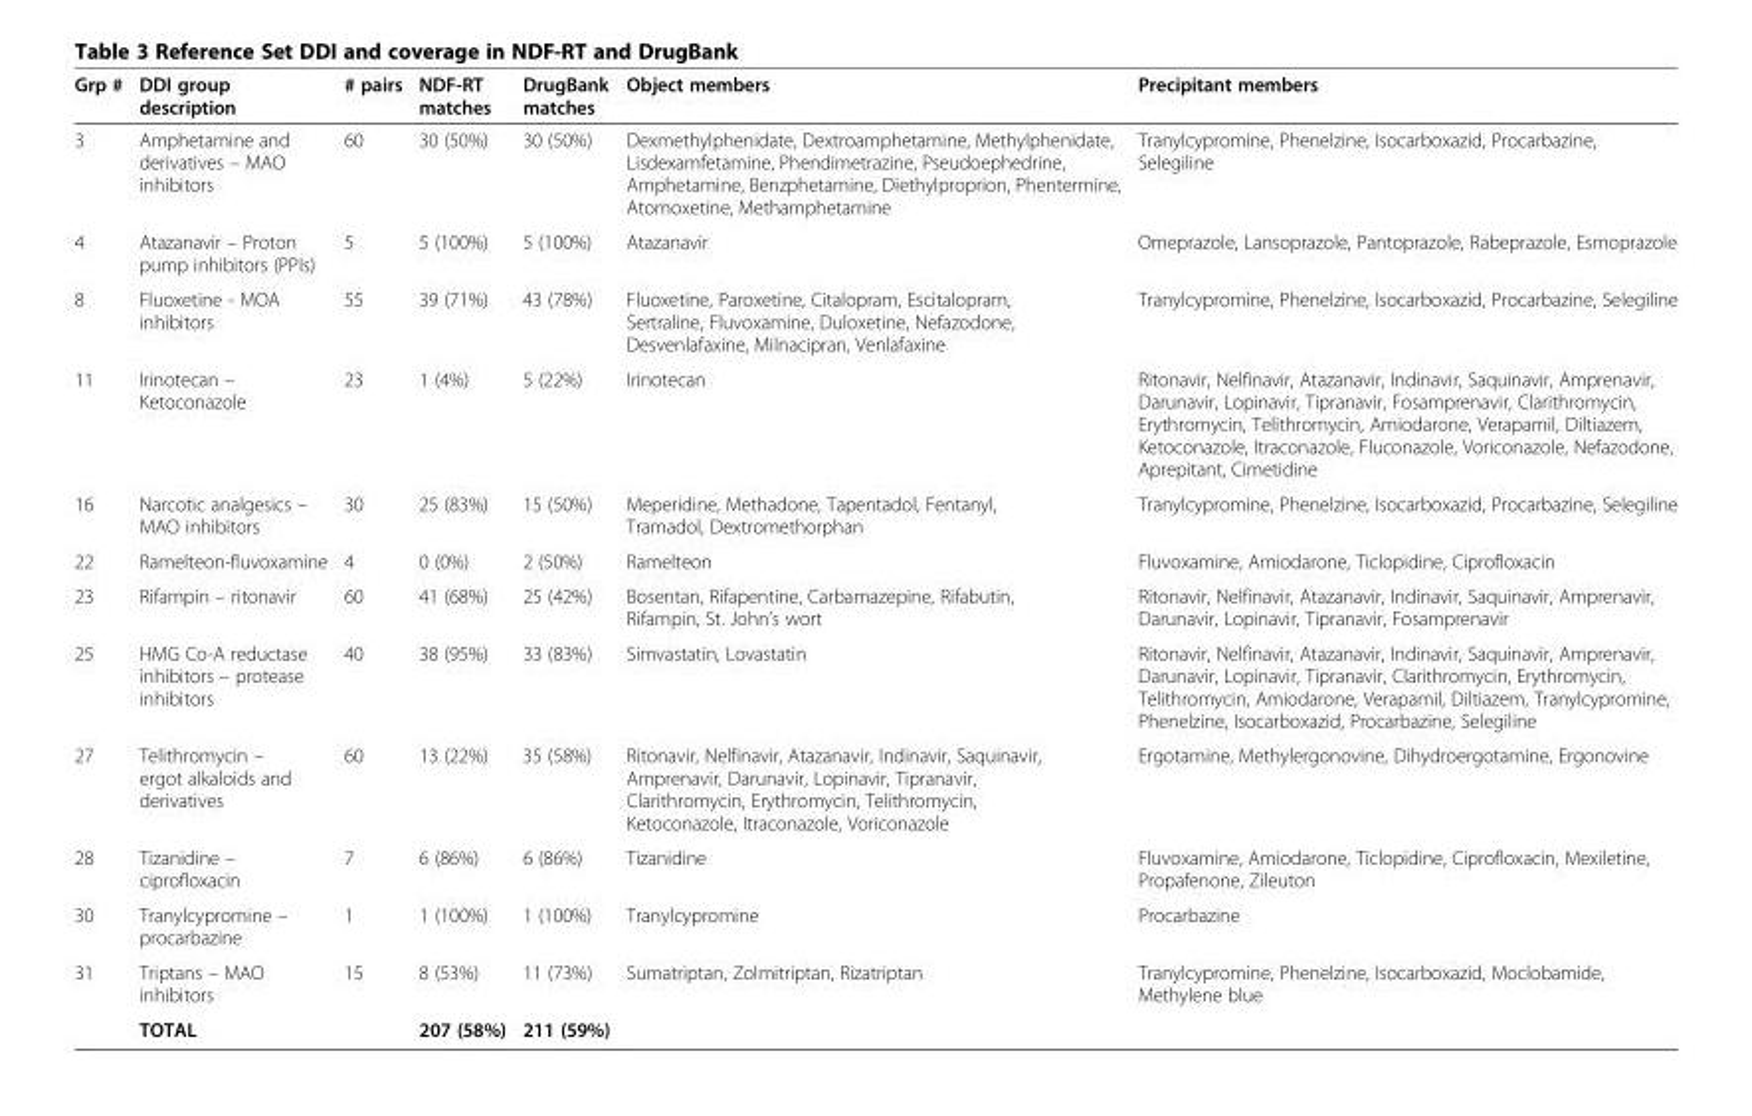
<table><thead><tr><td>Grp #</td><td>DDI group description</td><td># pairs</td><td>NDF-RT matches</td><td>DrugBank matches</td><td>Object members</td><td>Precipitant members</td></tr></thead><tbody><tr><td>3</td><td>Amphetamine and derivatives – MAO inhibitors</td><td>60</td><td>30 (50%)</td><td>30 (50%)</td><td>Dexmethylphenidate, Dextroamphetamine, Methylphenidate, Lisdexamfetamine, Phendimetrazine, Pseudoephedrine, Amphetamine, Benzphetamine, Diethylproprion, Phentermine, Atomoxetine, Methamphetamine</td><td>Tranylcypromine, Phenelzine, Isocarboxazid, Procarbazine, Selegiline</td></tr><tr><td>4</td><td>Atazanavir – Proton pump inhibitors (PPIs)</td><td>5</td><td>5 (100%)</td><td>5 (100%)</td><td>Atazanavir</td><td>Omeprazole, Lansoprazole, Pantoprazole, Rabeprazole, Esmoprazole</td></tr><tr><td>8</td><td>Fluoxetine - MOA inhibitors</td><td>55</td><td>39 (71%)</td><td>43 (78%)</td><td>Fluoxetine, Paroxetine, Citalopram, Escitalopram, Sertraline, Fluvoxamine, Duloxetine, Nefazodone, Desvenlafaxine, Milnacipran, Venlafaxine</td><td>Tranylcypromine, Phenelzine, Isocarboxazid, Procarbazine, Selegiline</td></tr><tr><td>11</td><td>Irinotecan – Ketoconazole</td><td>23</td><td>1 (4%)</td><td>5 (22%)</td><td>Irinotecan</td><td>Ritonavir, Nelfinavir, Atazanavir, Indinavir, Saquinavir, Amprenavir, Darunavir, Lopinavir, Tipranavir, Fosamprenavir, Clarithromycin, Erythromycin, Telithromycin, Amiodarone, Verapamil, Diltiazem, Ketoconazole, Itraconazole, Fluconazole, Voriconazole, Nefazodone, Aprepitant, Cimetidine</td></tr><tr><td>16</td><td>Narcotic analgesics – MAO inhibitors</td><td>30</td><td>25 (83%)</td><td>15 (50%)</td><td>Meperidine, Methadone, Tapentadol, Fentanyl, Tramadol, Dextromethorphan</td><td>Tranylcypromine, Phenelzine, Isocarboxazid, Procarbazine, Selegiline</td></tr><tr><td>22</td><td>Ramelteon-fluvoxamine</td><td>4</td><td>0 (0%)</td><td>2 (50%)</td><td>Ramelteon</td><td>Fluvoxamine, Amiodarone, Ticlopidine, Ciprofloxacin</td></tr><tr><td>23</td><td>Rifampin – ritonavir</td><td>60</td><td>41 (68%)</td><td>25 (42%)</td><td>Bosentan, Rifapentine, Carbamazepine, Rifabutin, Rifampin, St. John’s wort</td><td>Ritonavir, Nelfinavir, Atazanavir, Indinavir, Saquinavir, Amprenavir, Darunavir, Lopinavir, Tipranavir, Fosamprenavir</td></tr><tr><td>25</td><td>HMG Co-A reductase inhibitors – protease inhibitors</td><td>40</td><td>38 (95%)</td><td>33 (83%)</td><td>Simvastatin, Lovastatin</td><td>Ritonavir, Nelfinavir, Atazanavir, Indinavir, Saquinavir, Amprenavir, Darunavir, Lopinavir, Tipranavir, Clarithromycin, Erythromycin, Telithromycin, Amiodarone, Verapamil, Diltiazem, Tranylcypromine, Phenelzine, Isocarboxazid, Procarbazine, Selegiline</td></tr><tr><td>27</td><td>Telithromycin – ergot alkaloids and derivatives</td><td>60</td><td>13 (22%)</td><td>35 (58%)</td><td>Ritonavir, Nelfinavir, Atazanavir, Indinavir, Saquinavir, Amprenavir, Darunavir, Lopinavir, Tipranavir, Clarithromycin, Erythromycin, Telithromycin, Ketoconazole, Itraconazole, Voriconazole</td><td>Ergotamine, Methylergonovine, Dihydroergotamine, Ergonovine</td></tr><tr><td>28</td><td>Tizanidine – ciprofloxacin</td><td>7</td><td>6 (86%)</td><td>6 (86%)</td><td>Tizanidine</td><td>Fluvoxamine, Amiodarone, Ticlopidine, Ciprofloxacin, Mexiletine, Propafenone, Zileuton</td></tr><tr><td>30</td><td>Tranylcypromine – procarbazine</td><td>1</td><td>1 (100%)</td><td>1 (100%)</td><td>Tranylcypromine</td><td>Procarbazine</td></tr><tr><td rowspan="2">31</td><td>Triptans – MAO inhibitors</td><td>15</td><td>8 (53%)</td><td>11 (73%)</td><td>Sumatriptan, Zolmitriptan, Rizatriptan</td><td>Tranylcypromine, Phenelzine, Isocarboxazid, Moclobamide, Methylene blue</td></tr><tr><td>TOTAL</td><td></td><td>207 (58%)</td><td>211 (59%)</td><td></td><td></td></tr></tbody></table>